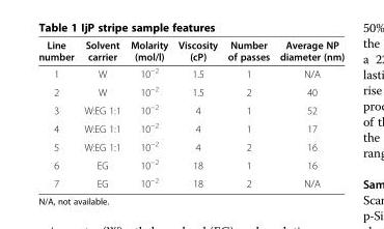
<table><thead><tr><td>Line number</td><td>Solvent carrier</td><td>Molarity (mol/l)</td><td>Viscosity (cP)</td><td>Number of passes</td><td>Average NP diameter (nm)</td></tr></thead><tbody><tr><td>1</td><td>W</td><td>10<sup>−2</sup></td><td>1.5</td><td>1</td><td>N/A</td></tr><tr><td>2</td><td>W</td><td>10<sup>−2</sup></td><td>1.5</td><td>2</td><td>40</td></tr><tr><td>3</td><td>W:EG 1:1</td><td>10<sup>−2</sup></td><td>4</td><td>1</td><td>52</td></tr><tr><td>4</td><td>W:EG 1:1</td><td>10<sup>−2</sup></td><td>4</td><td>1</td><td>17</td></tr><tr><td>5</td><td>W:EG 1:1</td><td>10<sup>−2</sup></td><td>4</td><td>2</td><td>16</td></tr><tr><td>6</td><td>EG</td><td>10<sup>−2</sup></td><td>18</td><td>1</td><td>16</td></tr><tr><td>7</td><td>EG</td><td>10<sup>−2</sup></td><td>18</td><td>2</td><td>N/A</td></tr></tbody></table>